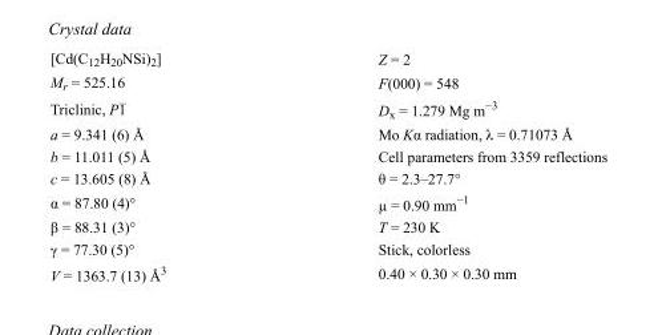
<table><tbody><tr><td>[Cd(C<sub>12</sub>H<sub>20</sub>NSi)<sub>2</sub>]</td><td>Z = 2</td></tr><tr><td>M<sub>r</sub> = 525.16</td><td>F(000) = 548</td></tr><tr><td>Triclinic, P1</td><td>D<sub>x</sub> = 1.279 Mg m<sup>−3</sup></td></tr><tr><td>a = 9.341 (6) Å</td><td>Mo Kα radiation, λ = 0.71073 Å</td></tr><tr><td>b = 11.011 (5) Å</td><td>Cell parameters from 3359 reflections</td></tr><tr><td>c = 13.605 (8) Å</td><td>θ = 2.3–27.7°</td></tr><tr><td>α = 87.80 (4)°</td><td>µ = 0.90 mm<sup>−1</sup></td></tr><tr><td>β = 88.31 (3)°</td><td>T = 230 K</td></tr><tr><td>γ = 77.30 (5)°</td><td>Stick, colorless</td></tr><tr><td>V = 1363.7 (13) Å<sup>3</sup></td><td>0.40 × 0.30 × 0.30 mm</td></tr></tbody></table>